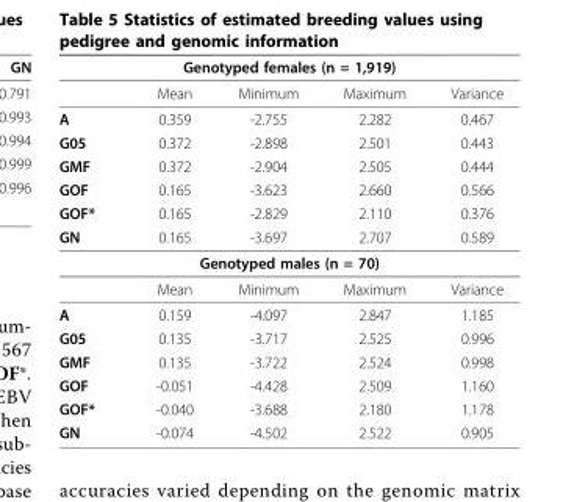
<table><thead><tr><td colspan="5">Genotyped females (n = 1,919)</td></tr><tr><td></td><td>Mean</td><td>Minimum</td><td>Maximum</td><td>Variance</td></tr></thead><tbody><tr><td>A</td><td>0.359</td><td>-2.755</td><td>2.282</td><td>0.467</td></tr><tr><td>G05</td><td>0.372</td><td>-2.898</td><td>2.501</td><td>0.443</td></tr><tr><td>GMF</td><td>0.372</td><td>-2.904</td><td>2.505</td><td>0.444</td></tr><tr><td>GOF</td><td>0.165</td><td>-3.623</td><td>2.660</td><td>0.566</td></tr><tr><td>GOF*</td><td>0.165</td><td>-2.829</td><td>2.110</td><td>0.376</td></tr><tr><td>GN</td><td>0.165</td><td>-3.697</td><td>2.707</td><td>0.589</td></tr><tr><td colspan="5">Genotyped males (n = 70)</td></tr><tr><td></td><td>Mean</td><td>Minimum</td><td>Maximum</td><td>Variance</td></tr><tr><td>A</td><td>0.159</td><td>-4.097</td><td>2.847</td><td>1.185</td></tr><tr><td>G05</td><td>0.135</td><td>-3.717</td><td>2.525</td><td>0.996</td></tr><tr><td>GMF</td><td>0.135</td><td>-3.722</td><td>2.524</td><td>0.998</td></tr><tr><td>GOF</td><td>-0.051</td><td>-4.428</td><td>2.509</td><td>1.160</td></tr><tr><td>GOF*</td><td>-0.040</td><td>-3.688</td><td>2.180</td><td>1.178</td></tr><tr><td>GN</td><td>-0.074</td><td>-4.502</td><td>2.522</td><td>0.905</td></tr></tbody></table>